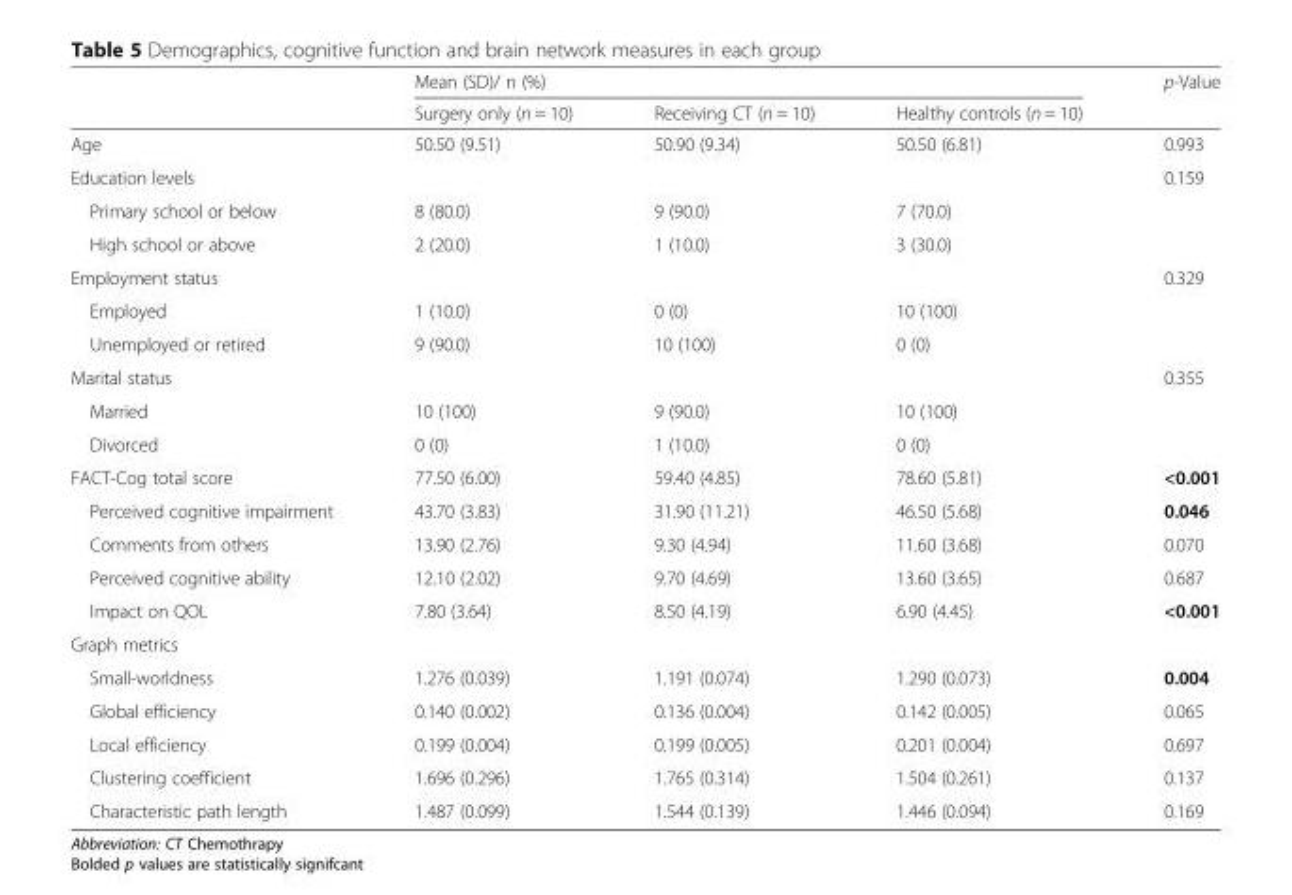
<table><thead><tr><td rowspan="2"></td><td colspan="3">Mean (SD)/ n (%)</td><td rowspan="2">p-Value</td></tr><tr><td>Surgery only (n = 10)</td><td>Receiving CT (n = 10)</td><td>Healthy controls (n = 10)</td></tr></thead><tbody><tr><td>Age</td><td>50.50 (9.51)</td><td>50.90 (9.34)</td><td>50.50 (6.81)</td><td>0.993</td></tr><tr><td>Education levels</td><td></td><td></td><td></td><td>0.159</td></tr><tr><td>Primary school or below</td><td>8 (80.0)</td><td>9 (90.0)</td><td>7 (70.0)</td><td></td></tr><tr><td>High school or above</td><td>2 (20.0)</td><td>1 (10.0)</td><td>3 (30.0)</td><td></td></tr><tr><td>Employment status</td><td></td><td></td><td></td><td>0.329</td></tr><tr><td>Employed</td><td>1 (10.0)</td><td>0 (0)</td><td>10 (100)</td><td></td></tr><tr><td>Unemployed or retired</td><td>9 (90.0)</td><td>10 (100)</td><td>0 (0)</td><td></td></tr><tr><td>Marital status</td><td></td><td></td><td></td><td>0.355</td></tr><tr><td>Married</td><td>10 (100)</td><td>9 (90.0)</td><td>10 (100)</td><td></td></tr><tr><td>Divorced</td><td>0 (0)</td><td>1 (10.0)</td><td>0 (0)</td><td></td></tr><tr><td>FACT-Cog total score</td><td>77.50 (6.00)</td><td>59.40 (4.85)</td><td>78.60 (5.81)</td><td>&lt;0.001</td></tr><tr><td>Perceived cognitive impairment</td><td>43.70 (3.83)</td><td>31.90 (11.21)</td><td>46.50 (5.68)</td><td>0.046</td></tr><tr><td>Comments from others</td><td>13.90 (2.76)</td><td>9.30 (4.94)</td><td>11.60 (3.68)</td><td>0.070</td></tr><tr><td>Perceived cognitive ability</td><td>12.10 (2.02)</td><td>9.70 (4.69)</td><td>13.60 (3.65)</td><td>0.687</td></tr><tr><td>Impact on QOL</td><td>7.80 (3.64)</td><td>8.50 (4.19)</td><td>6.90 (4.45)</td><td>&lt;0.001</td></tr><tr><td colspan="5">Graph metrics</td></tr><tr><td>Small-worldness</td><td>1.276 (0.039)</td><td>1.191 (0.074)</td><td>1.290 (0.073)</td><td>0.004</td></tr><tr><td>Global efficiency</td><td>0.140 (0.002)</td><td>0.136 (0.004)</td><td>0.142 (0.005)</td><td>0.065</td></tr><tr><td>Local efficiency</td><td>0.199 (0.004)</td><td>0.199 (0.005)</td><td>0.201 (0.004)</td><td>0.697</td></tr><tr><td>Clustering coefficient</td><td>1.696 (0.296)</td><td>1.765 (0.314)</td><td>1.504 (0.261)</td><td>0.137</td></tr><tr><td>Characteristic path length</td><td>1.487 (0.099)</td><td>1.544 (0.139)</td><td>1.446 (0.094)</td><td>0.169</td></tr></tbody></table>